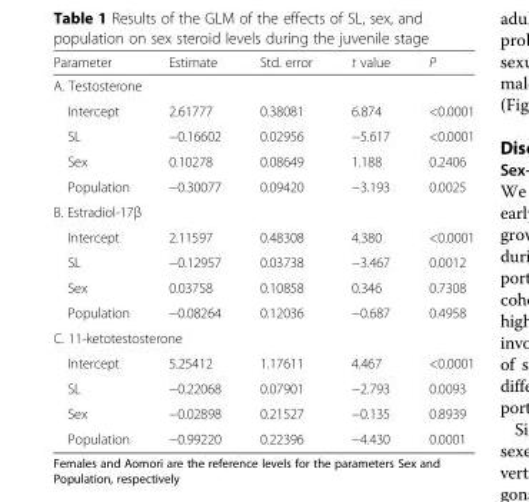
<table><thead><tr><td>Parameter</td><td>Estimate</td><td>Std. error</td><td>t value</td><td>P</td></tr></thead><tbody><tr><td colspan="5">A. Testosterone</td></tr><tr><td>Intercept</td><td>2.61777</td><td>0.38081</td><td>6.874</td><td>&lt;0.0001</td></tr><tr><td>SL</td><td>−0.16602</td><td>0.02956</td><td>−5.617</td><td>&lt;0.0001</td></tr><tr><td>Sex</td><td>0.10278</td><td>0.08649</td><td>1.188</td><td>0.2406</td></tr><tr><td>Population</td><td>−0.30077</td><td>0.09420</td><td>−3.193</td><td>0.0025</td></tr><tr><td colspan="5">B. Estradiol-17β</td></tr><tr><td>Intercept</td><td>2.11597</td><td>0.48308</td><td>4.380</td><td>&lt;0.0001</td></tr><tr><td>SL</td><td>−0.12957</td><td>0.03738</td><td>−3.467</td><td>0.0012</td></tr><tr><td>Sex</td><td>0.03758</td><td>0.10858</td><td>0.346</td><td>0.7308</td></tr><tr><td>Population</td><td>−0.08264</td><td>0.12036</td><td>−0.687</td><td>0.4958</td></tr><tr><td colspan="5">C. 11-ketotestosterone</td></tr><tr><td>Intercept</td><td>5.25412</td><td>1.17611</td><td>4.467</td><td>&lt;0.0001</td></tr><tr><td>SL</td><td>−0.22068</td><td>0.07901</td><td>−2.793</td><td>0.0093</td></tr><tr><td>Sex</td><td>−0.02898</td><td>0.21527</td><td>−0.135</td><td>0.8939</td></tr><tr><td>Population</td><td>−0.99220</td><td>0.22396</td><td>−4.430</td><td>0.0001</td></tr></tbody></table>